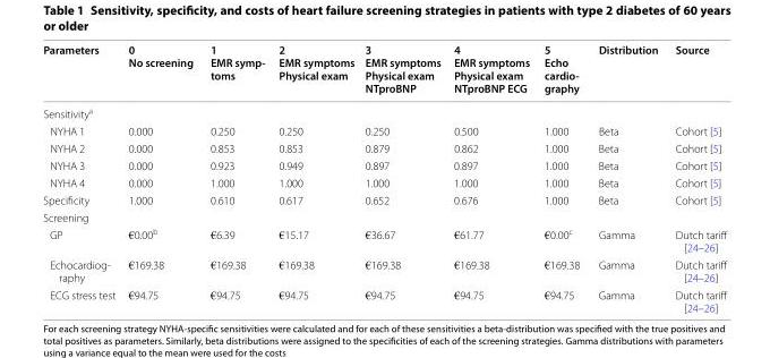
<table><thead><tr><td>Parameters</td><td>0 No screening</td><td>1 EMR symp‑ toms</td><td>2 EMR symptoms Physical exam</td><td>3 EMR symptoms Physical exam NTproBNP</td><td>4 EMR symptoms Physical exam NTproBNP ECG</td><td>5 Echo cardio‑ graphy</td><td>Distribution</td><td>Source</td></tr></thead><tbody><tr><td colspan="9">Sensitivity<sup>a</sup></td></tr><tr><td>NYHA 1</td><td>0.000</td><td>0.250</td><td>0.250</td><td>0.250</td><td>0.500</td><td>1.000</td><td>Beta</td><td>Cohort [5]</td></tr><tr><td>NYHA 2</td><td>0.000</td><td>0.853</td><td>0.853</td><td>0.879</td><td>0.862</td><td>1.000</td><td>Beta</td><td>Cohort [5]</td></tr><tr><td>NYHA 3</td><td>0.000</td><td>0.923</td><td>0.949</td><td>0.897</td><td>0.897</td><td>1.000</td><td>Beta</td><td>Cohort [5]</td></tr><tr><td>NYHA 4</td><td>0.000</td><td>1.000</td><td>1.000</td><td>1.000</td><td>1.000</td><td>1.000</td><td>Beta</td><td>Cohort [5]</td></tr><tr><td>Specificity</td><td>1.000</td><td>0.610</td><td>0.617</td><td>0.652</td><td>0.676</td><td>1.000</td><td>Beta</td><td>Cohort [5]</td></tr><tr><td colspan="9">Screening</td></tr><tr><td>GP</td><td>€0.00<sup>b</sup></td><td>€6.39</td><td>€15.17</td><td>€36.67</td><td>€61.77</td><td>€0.00<sup>c</sup></td><td>Gamma</td><td>Dutch tariff [24–26]</td></tr><tr><td>Echocardiog‑ raphy</td><td>€169.38</td><td>€169.38</td><td>€169.38</td><td>€169.38</td><td>€169.38</td><td>€169.38</td><td>Gamma</td><td>Dutch tariff [24–26]</td></tr><tr><td>ECG stress test</td><td>€94.75</td><td>€94.75</td><td>€94.75</td><td>€94.75</td><td>€94.75</td><td>€94.75</td><td>Gamma</td><td>Dutch tariff [24–26]</td></tr></tbody></table>